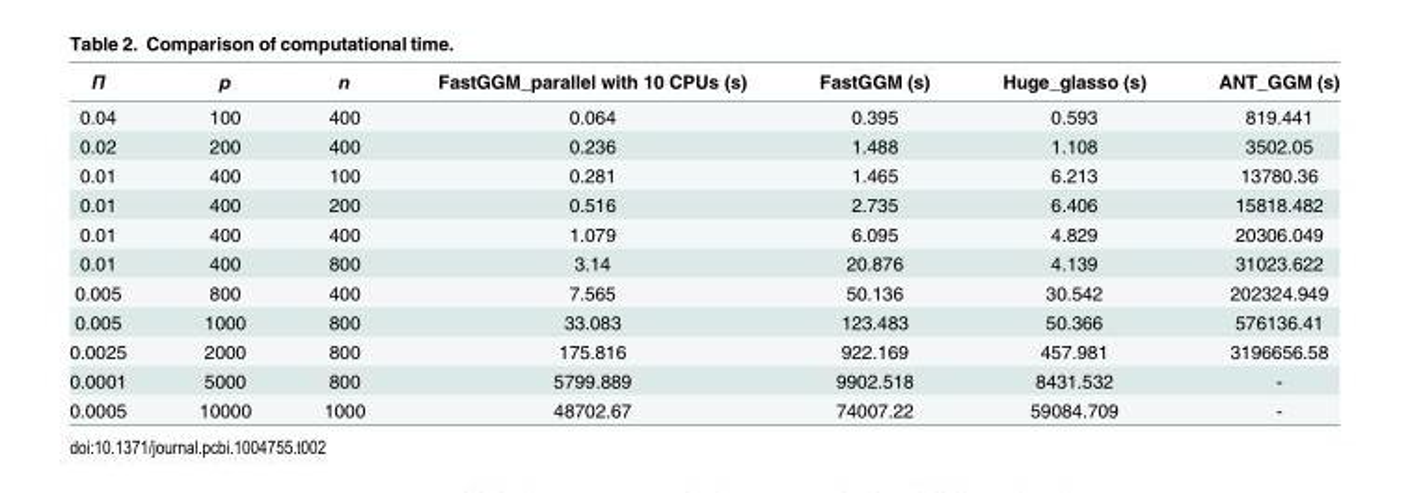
<table><thead><tr><td>Π</td><td>p</td><td>n</td><td>FastGGM_parallel with 10 CPUs (s)</td><td>FastGGM (s)</td><td>Huge_glasso (s)</td><td>ANT_GGM (s)</td></tr></thead><tbody><tr><td>0.04</td><td>100</td><td>400</td><td>0.064</td><td>0.395</td><td>0.593</td><td>819.441</td></tr><tr><td>0.02</td><td>200</td><td>400</td><td>0.236</td><td>1.488</td><td>1.108</td><td>3502.05</td></tr><tr><td>0.01</td><td>400</td><td>100</td><td>0.281</td><td>1.465</td><td>6.213</td><td>13780.36</td></tr><tr><td>0.01</td><td>400</td><td>200</td><td>0.516</td><td>2.735</td><td>6.406</td><td>15818.482</td></tr><tr><td>0.01</td><td>400</td><td>400</td><td>1.079</td><td>6.095</td><td>4.829</td><td>20306.049</td></tr><tr><td>0.01</td><td>400</td><td>800</td><td>3.14</td><td>20.876</td><td>4.139</td><td>31023.622</td></tr><tr><td>0.005</td><td>800</td><td>400</td><td>7.565</td><td>50.136</td><td>30.542</td><td>202324.949</td></tr><tr><td>0.005</td><td>1000</td><td>800</td><td>33.083</td><td>123.483</td><td>50.366</td><td>576136.41</td></tr><tr><td>0.0025</td><td>2000</td><td>800</td><td>175.816</td><td>922.169</td><td>457.981</td><td>3196656.58</td></tr><tr><td>0.0001</td><td>5000</td><td>800</td><td>5799.889</td><td>9902.518</td><td>8431.532</td><td>-</td></tr><tr><td>0.0005</td><td>10000</td><td>1000</td><td>48702.67</td><td>74007.22</td><td>59084.709</td><td>-</td></tr></tbody></table>